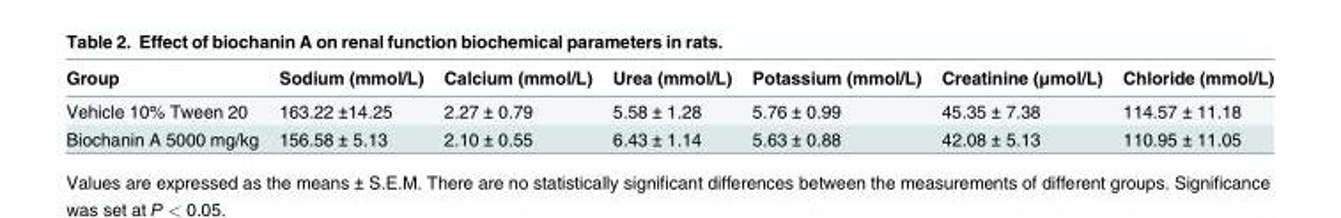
<table><thead><tr><td>Group</td><td>Sodium (mmol/L)</td><td>Calcium (mmol/L)</td><td>Urea (mmol/L)</td><td>Potassium (mmol/L)</td><td>Creatinine (μmol/L)</td><td>Chloride (mmol/L)</td></tr></thead><tbody><tr><td>Vehicle 10% Tween 20</td><td>163.22 ±14.25</td><td>2.27 ± 0.79</td><td>5.58 ± 1.28</td><td>5.76 ± 0.99</td><td>45.35 ± 7.38</td><td>114.57 ± 11.18</td></tr><tr><td>Biochanin A 5000 mg/kg</td><td>156.58 ± 5.13</td><td>2.10 ± 0.55</td><td>6.43 ± 1.14</td><td>5.63 ± 0.88</td><td>42.08 ± 5.13</td><td>110.95 ± 11.05</td></tr></tbody></table>